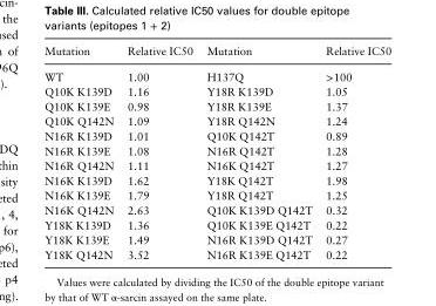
<table><thead><tr><td>Mutation</td><td>Relative IC50</td><td>Mutation</td><td>Relative IC50</td></tr></thead><tbody><tr><td>WT</td><td>1.00</td><td>H137Q</td><td>&gt;100</td></tr><tr><td>Q10K K139D</td><td>1.16</td><td>Y18R K139D</td><td>1.05</td></tr><tr><td>Q10K K139E</td><td>0.98</td><td>Y18R K139E</td><td>1.37</td></tr><tr><td>Q10K Q142N</td><td>1.09</td><td>Y18R Q142N</td><td>1.24</td></tr><tr><td>N16R K139D</td><td>1.01</td><td>Q10K Q142T</td><td>0.89</td></tr><tr><td>N16R K139E</td><td>1.08</td><td>N16R Q142T</td><td>1.28</td></tr><tr><td>N16R Q142N</td><td>1.11</td><td>N16K Q142T</td><td>1.27</td></tr><tr><td>N16K K139D</td><td>1.62</td><td>Y18K Q142T</td><td>1.98</td></tr><tr><td>N16K K139E</td><td>1.79</td><td>Y18R Q142T</td><td>1.25</td></tr><tr><td>N16K Q142N</td><td>2.63</td><td>Q10K K139D Q142T</td><td>0.32</td></tr><tr><td>Y18K K139D</td><td>1.36</td><td>Q10K K139E Q142T</td><td>0.22</td></tr><tr><td>Y18K K139E</td><td>1.49</td><td>N16R K139D Q142T</td><td>0.27</td></tr><tr><td>Y18K Q142N</td><td>3.52</td><td>N16R K139E Q142T</td><td>0.22</td></tr></tbody></table>